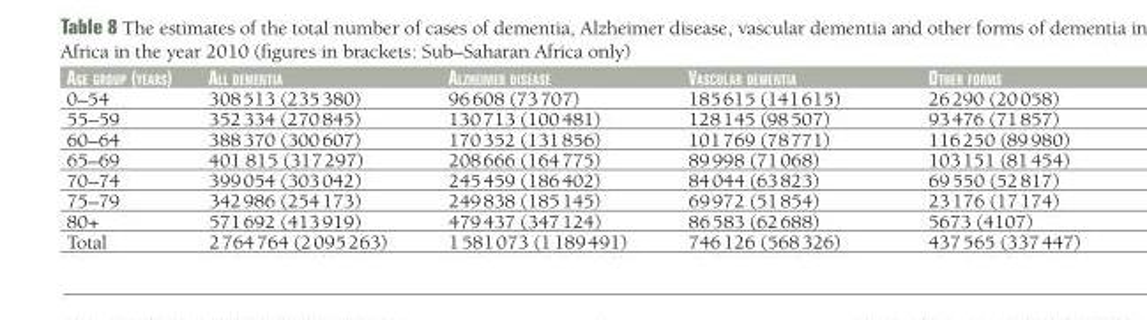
<table><thead><tr><td>age group (years)</td><td>all demeNtia</td><td>alzheimer disease</td><td>VasCular demeNtia</td><td>other forms</td></tr></thead><tbody><tr><td>0–54</td><td>308 513 (235 380)</td><td>96 608 (73 707)</td><td>185 615 (141 615)</td><td>26 290 (20 058)</td></tr><tr><td>55–59</td><td>352 334 (270 845)</td><td>130 713 (100 481)</td><td>128 145 (98 507)</td><td>93 476 (71 857)</td></tr><tr><td>60–64</td><td>388 370 (300 607)</td><td>170 352 (131 856)</td><td>101 769 (78 771)</td><td>116 250 (89 980)</td></tr><tr><td>65–69</td><td>401 815 (317 297)</td><td>208 666 (164 775)</td><td>89 998 (71 068)</td><td>103 151 (81 454)</td></tr><tr><td>70–74</td><td>399 054 (303 042)</td><td>245 459 (186 402)</td><td>84 044 (63 823)</td><td>69 550 (52 817)</td></tr><tr><td>75–79</td><td>342 986 (254 173)</td><td>249 838 (185 145)</td><td>69 972 (51 854)</td><td>23 176 (17 174)</td></tr><tr><td>80+</td><td>571 692 (413 919)</td><td>479 437 (347 124)</td><td>86 583 (62 688)</td><td>5673 (4107)</td></tr><tr><td>Total</td><td>2 764 764 (2 095 263)</td><td>1 581 073 (1 189 491)</td><td>746 126 (568 326)</td><td>437 565 (337 447)</td></tr></tbody></table>